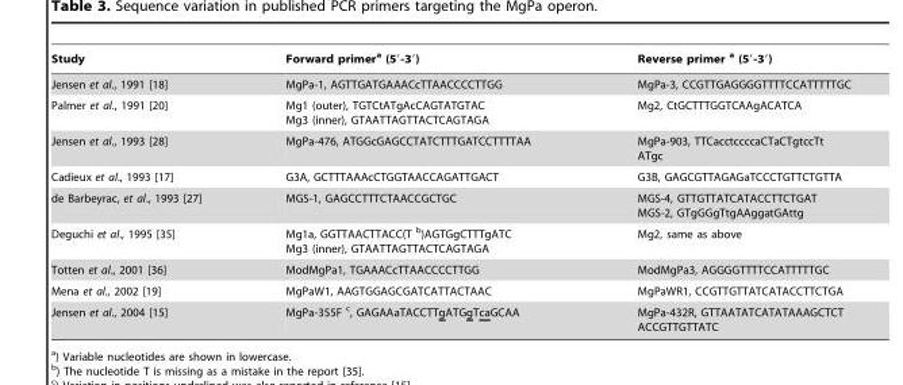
<table><thead><tr><td>Study</td><td>Forward primer<sup>a</sup> (5′-3′)</td><td>Reverse primer a (5′-3′)</td></tr></thead><tbody><tr><td>Jensen et al., 1991 [18]</td><td>MgPa-1, AGTTGATGAAACcTTAACCCCTTGG</td><td>MgPa-3, CCGTTGAGGGGTTTTCCATTTTTGC</td></tr><tr><td>Palmer et al., 1991 [20]</td><td>Mg1 (outer), TGTCtATgAcCAGTATGTAC Mg3 (inner), GTAATTAGTTACTCAGTAGA</td><td>Mg2, CtGCTTTGGTCAAgACATCA</td></tr><tr><td>Jensen et al., 1993 [28]</td><td>MgPa-476, ATGGcGAGCCTATCTTTGATCCTTTTAA</td><td>MgPa-903, TTCacctccccaCTaCTgtccTt ATgc</td></tr><tr><td>Cadieux et al., 1993 [17]</td><td>G3A, GCTTTAAAcCTGGTAACCAGATTGACT</td><td>G3B, GAGCGTTAGAGaTCCCTGTTCTGTTA</td></tr><tr><td>de Barbeyrac, et al., 1993 [27]</td><td>MGS-1, GAGCCTTTCTAACCGCTGC</td><td>MGS-4, GTTGTTATCATACCTTCTGAT MGS-2, GTgGGgTtgAAggatGAttg</td></tr><tr><td>Deguchi et al., 1995 [35]</td><td>Mg1a, GGTTAACTTACC(T b)AGTGgCTTTgATC Mg3 (inner), GTAATTAGTTACTCAGTAGA</td><td>Mg2, same as above</td></tr><tr><td>Totten et al., 2001 [36]</td><td>ModMgPa1, TGAAACcTTAACCCCTTGG</td><td>ModMgPa3, AGGGGTTTTCCATTTTTGC</td></tr><tr><td>Mena et al., 2002 [19]</td><td>MgPaW1, AAGTGGAGCGATCATTACTAAC</td><td>MgPaWR1, CCGTTGTTATCATACCTTCTGA</td></tr><tr><td>Jensen et al., 2004 [15]</td><td>MgPa-355F c, GAGAAaTACCTTgATGgTcaGCAA</td><td>MgPa-432R, GTTAATATCATATAAAGCTCT ACCGTTGTTATC</td></tr></tbody></table>